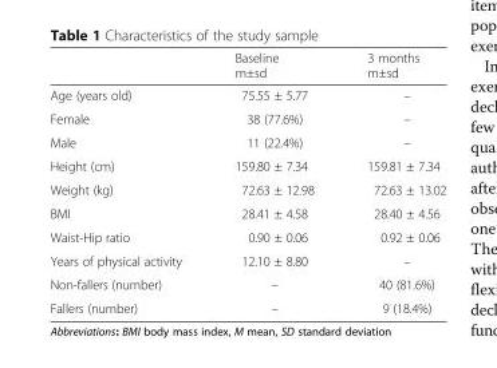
<table><thead><tr><td></td><td>Baseline m±sd</td><td>3 months m±sd</td></tr></thead><tbody><tr><td>Age (years old)</td><td>75.55 ± 5.77</td><td>–</td></tr><tr><td>Female</td><td>38 (77.6%)</td><td>–</td></tr><tr><td>Male</td><td>11 (22.4%)</td><td>–</td></tr><tr><td>Height (cm)</td><td>159.80 ± 7.34</td><td>159.81 ± 7.34</td></tr><tr><td>Weight (kg)</td><td>72.63 ± 12.98</td><td>72.63 ± 13.02</td></tr><tr><td>BMI</td><td>28.41 ± 4.58</td><td>28.40 ± 4.56</td></tr><tr><td>Waist-Hip ratio</td><td>0.90 ± 0.06</td><td>0.92 ± 0.06</td></tr><tr><td>Years of physical activity</td><td>12.10 ± 8.80</td><td>–</td></tr><tr><td>Non-fallers (number)</td><td>–</td><td>40 (81.6%)</td></tr><tr><td>Fallers (number)</td><td>–</td><td>9 (18.4%)</td></tr></tbody></table>